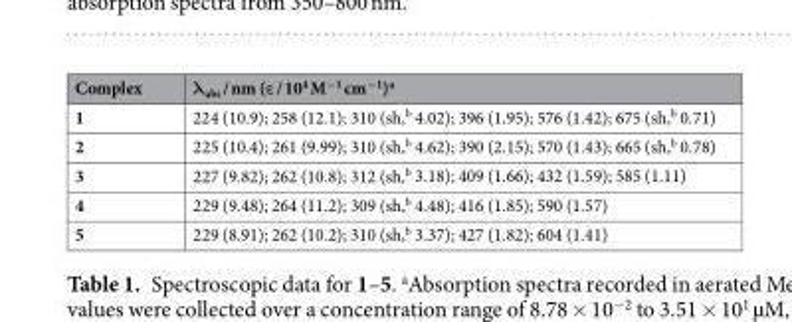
<table><thead><tr><td>Complex</td><td>λ<sub>abs</sub> / nm (ε / 10<sup>4</sup> M<sup>−1</sup> cm<sup>−1</sup>)<sup>a</sup></td></tr></thead><tbody><tr><td>1</td><td>224 (10.9); 258 (12.1); 310 (sh,<sup>b</sup> 4.02); 396 (1.95); 576 (1.42); 675 (sh,<sup>b</sup> 0.71)</td></tr><tr><td>2</td><td>225 (10.4); 261 (9.99); 310 (sh,<sup>b</sup> 4.62); 390 (2.15); 570 (1.43); 665 (sh,<sup>b</sup> 0.78)</td></tr><tr><td>3</td><td>227 (9.82); 262 (10.8); 312 (sh,<sup>b</sup> 3.18); 409 (1.66); 432 (1.59); 585 (1.11)</td></tr><tr><td>4</td><td>229 (9.48); 264 (11.2); 309 (sh,<sup>b</sup> 4.48); 416 (1.85); 590 (1.57)</td></tr><tr><td>5</td><td>229 (8.91); 262 (10.2); 310 (sh,<sup>b</sup> 3.37); 427 (1.82); 604 (1.41)</td></tr></tbody></table>